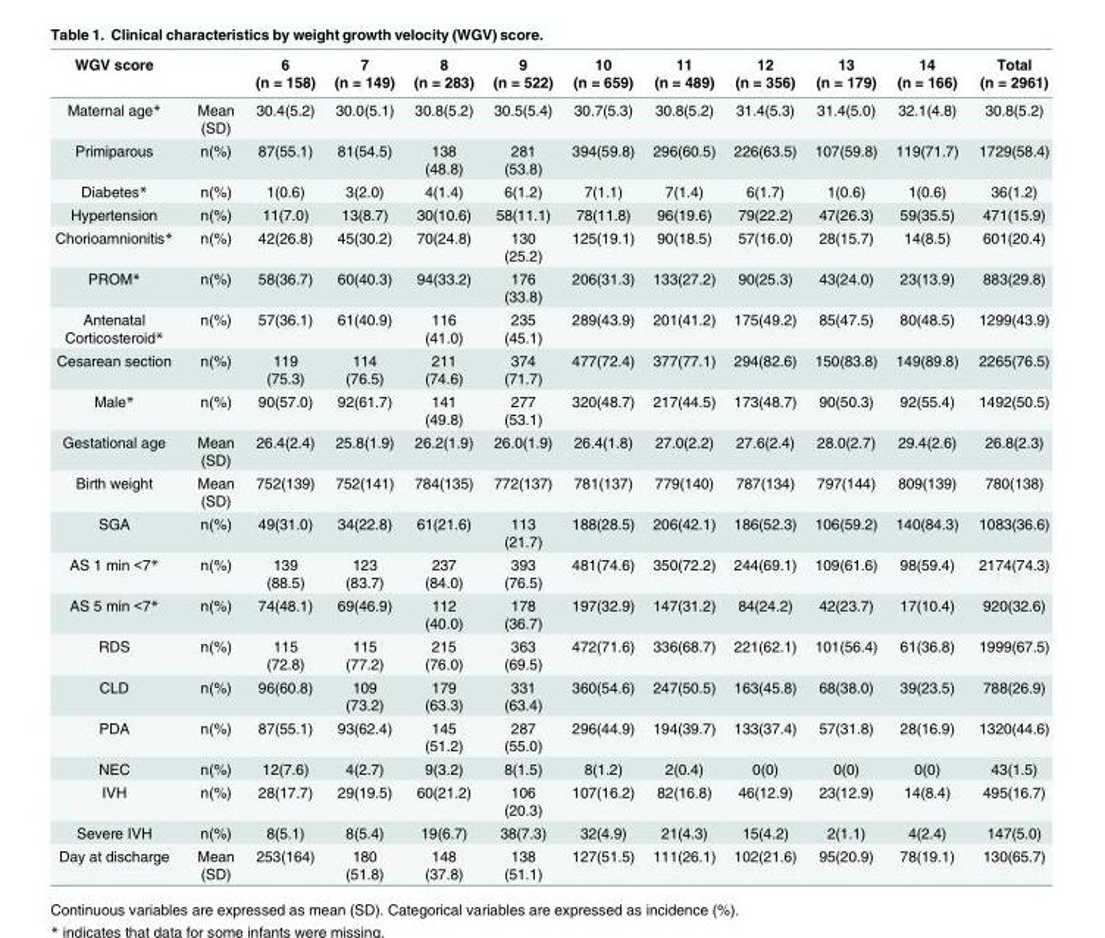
<table><thead><tr><td>WGV score</td><td></td><td>6 (n = 158)</td><td>7 (n = 149)</td><td>8 (n = 283)</td><td>9 (n = 522)</td><td>10 (n = 659)</td><td>11 (n = 489)</td><td>12 (n = 356)</td><td>13 (n = 179)</td><td>14 (n = 166)</td><td>Total (n = 2961)</td></tr></thead><tbody><tr><td>Maternal age*</td><td>Mean (SD)</td><td>30.4(5.2)</td><td>30.0(5.1)</td><td>30.8(5.2)</td><td>30.5(5.4)</td><td>30.7(5.3)</td><td>30.8(5.2)</td><td>31.4(5.3)</td><td>31.4(5.0)</td><td>32.1(4.8)</td><td>30.8(5.2)</td></tr><tr><td>Primiparous</td><td>n(%)</td><td>87(55.1)</td><td>81(54.5)</td><td>138 (48.8)</td><td>281 (53.8)</td><td>394(59.8)</td><td>296(60.5)</td><td>226(63.5)</td><td>107(59.8)</td><td>119(71.7)</td><td>1729(58.4)</td></tr><tr><td>Diabetes*</td><td>n(%)</td><td>1(0.6)</td><td>3(2.0)</td><td>4(1.4)</td><td>6(1.2)</td><td>7(1.1)</td><td>7(1.4)</td><td>6(1.7)</td><td>1(0.6)</td><td>1(0.6)</td><td>36(1.2)</td></tr><tr><td>Hypertension</td><td>n(%)</td><td>11(7.0)</td><td>13(8.7)</td><td>30(10.6)</td><td>58(11.1)</td><td>78(11.8)</td><td>96(19.6)</td><td>79(22.2)</td><td>47(26.3)</td><td>59(35.5)</td><td>471(15.9)</td></tr><tr><td>Chorioamnionitis*</td><td>n(%)</td><td>42(26.8)</td><td>45(30.2)</td><td>70(24.8)</td><td>130 (25.2)</td><td>125(19.1)</td><td>90(18.5)</td><td>57(16.0)</td><td>28(15.7)</td><td>14(8.5)</td><td>601(20.4)</td></tr><tr><td>PROM*</td><td>n(%)</td><td>58(36.7)</td><td>60(40.3)</td><td>94(33.2)</td><td>176 (33.8)</td><td>206(31.3)</td><td>133(27.2)</td><td>90(25.3)</td><td>43(24.0)</td><td>23(13.9)</td><td>883(29.8)</td></tr><tr><td>Antenatal Corticosteroid*</td><td>n(%)</td><td>57(36.1)</td><td>61(40.9)</td><td>116 (41.0)</td><td>235 (45.1)</td><td>289(43.9)</td><td>201(41.2)</td><td>175(49.2)</td><td>85(47.5)</td><td>80(48.5)</td><td>1299(43.9)</td></tr><tr><td>Cesarean section</td><td>n(%)</td><td>119 (75.3)</td><td>114 (76.5)</td><td>211 (74.6)</td><td>374 (71.7)</td><td>477(72.4)</td><td>377(77.1)</td><td>294(82.6)</td><td>150(83.8)</td><td>149(89.8)</td><td>2265(76.5)</td></tr><tr><td>Male*</td><td>n(%)</td><td>90(57.0)</td><td>92(61.7)</td><td>141 (49.8)</td><td>277 (53.1)</td><td>320(48.7)</td><td>217(44.5)</td><td>173(48.7)</td><td>90(50.3)</td><td>92(55.4)</td><td>1492(50.5)</td></tr><tr><td>Gestational age</td><td>Mean (SD)</td><td>26.4(2.4)</td><td>25.8(1.9)</td><td>26.2(1.9)</td><td>26.0(1.9)</td><td>26.4(1.8)</td><td>27.0(2.2)</td><td>27.6(2.4)</td><td>28.0(2.7)</td><td>29.4(2.6)</td><td>26.8(2.3)</td></tr><tr><td>Birth weight</td><td>Mean (SD)</td><td>752(139)</td><td>752(141)</td><td>784(135)</td><td>772(137)</td><td>781(137)</td><td>779(140)</td><td>787(134)</td><td>797(144)</td><td>809(139)</td><td>780(138)</td></tr><tr><td>SGA</td><td>n(%)</td><td>49(31.0)</td><td>34(22.8)</td><td>61(21.6)</td><td>113 (21.7)</td><td>188(28.5)</td><td>206(42.1)</td><td>186(52.3)</td><td>106(59.2)</td><td>140(84.3)</td><td>1083(36.6)</td></tr><tr><td>AS 1 min &lt;7*</td><td>n(%)</td><td>139 (88.5)</td><td>123 (83.7)</td><td>237 (84.0)</td><td>393 (76.5)</td><td>481(74.6)</td><td>350(72.2)</td><td>244(69.1)</td><td>109(61.6)</td><td>98(59.4)</td><td>2174(74.3)</td></tr><tr><td>AS 5 min &lt;7*</td><td>n(%)</td><td>74(48.1)</td><td>69(46.9)</td><td>112 (40.0)</td><td>178 (36.7)</td><td>197(32.9)</td><td>147(31.2)</td><td>84(24.2)</td><td>42(23.7)</td><td>17(10.4)</td><td>920(32.6)</td></tr><tr><td>RDS</td><td>n(%)</td><td>115 (72.8)</td><td>115 (77.2)</td><td>215 (76.0)</td><td>363 (69.5)</td><td>472(71.6)</td><td>336(68.7)</td><td>221(62.1)</td><td>101(56.4)</td><td>61(36.8)</td><td>1999(67.5)</td></tr><tr><td>CLD</td><td>n(%)</td><td>96(60.8)</td><td>109 (73.2)</td><td>179 (63.3)</td><td>331 (63.4)</td><td>360(54.6)</td><td>247(50.5)</td><td>163(45.8)</td><td>68(38.0)</td><td>39(23.5)</td><td>788(26.9)</td></tr><tr><td>PDA</td><td>n(%)</td><td>87(55.1)</td><td>93(62.4)</td><td>145 (51.2)</td><td>287 (55.0)</td><td>296(44.9)</td><td>194(39.7)</td><td>133(37.4)</td><td>57(31.8)</td><td>28(16.9)</td><td>1320(44.6)</td></tr><tr><td>NEC</td><td>n(%)</td><td>12(7.6)</td><td>4(2.7)</td><td>9(3.2)</td><td>8(1.5)</td><td>8(1.2)</td><td>2(0.4)</td><td>0(0)</td><td>0(0)</td><td>0(0)</td><td>43(1.5)</td></tr><tr><td>IVH</td><td>n(%)</td><td>28(17.7)</td><td>29(19.5)</td><td>60(21.2)</td><td>106 (20.3)</td><td>107(16.2)</td><td>82(16.8)</td><td>46(12.9)</td><td>23(12.9)</td><td>14(8.4)</td><td>495(16.7)</td></tr><tr><td>Severe IVH</td><td>n(%)</td><td>8(5.1)</td><td>8(5.4)</td><td>19(6.7)</td><td>38(7.3)</td><td>32(4.9)</td><td>21(4.3)</td><td>15(4.2)</td><td>2(1.1)</td><td>4(2.4)</td><td>147(5.0)</td></tr><tr><td>Day at discharge</td><td>Mean (SD)</td><td>253(164)</td><td>180 (51.8)</td><td>148 (37.8)</td><td>138 (51.1)</td><td>127(51.5)</td><td>111(26.1)</td><td>102(21.6)</td><td>95(20.9)</td><td>78(19.1)</td><td>130(65.7)</td></tr></tbody></table>